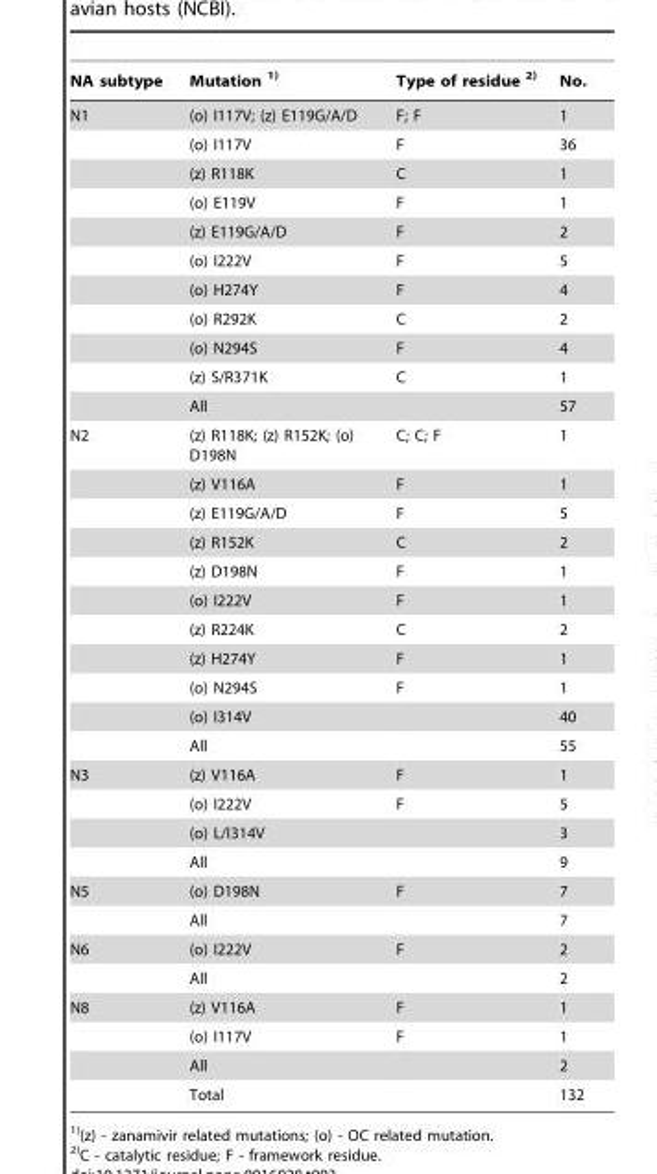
<table><thead><tr><td>NA subtype</td><td>Mutation 1)</td><td>Type of residue 2)</td><td>No.</td></tr></thead><tbody><tr><td rowspan="11">N1</td><td>(o) I117V; (z) E119G/A/D</td><td>F; F</td><td>1</td></tr><tr><td>(o) I117V</td><td>F</td><td>36</td></tr><tr><td>(z) R118K</td><td>C</td><td>1</td></tr><tr><td>(o) E119V</td><td>F</td><td>1</td></tr><tr><td>(z) E119G/A/D</td><td>F</td><td>2</td></tr><tr><td>(o) I222V</td><td>F</td><td>5</td></tr><tr><td>(o) H274Y</td><td>F</td><td>4</td></tr><tr><td>(o) R292K</td><td>C</td><td>2</td></tr><tr><td>(o) N294S</td><td>F</td><td>4</td></tr><tr><td>(z) S/R371K</td><td>C</td><td>1</td></tr><tr><td>All</td><td></td><td>57</td></tr><tr><td rowspan="11">N2</td><td>(z) R118K; (z) R152K; (o) D198N</td><td>C; C; F</td><td>1</td></tr><tr><td>(z) V116A</td><td>F</td><td>1</td></tr><tr><td>(z) E119G/A/D</td><td>F</td><td>5</td></tr><tr><td>(z) R152K</td><td>C</td><td>2</td></tr><tr><td>(z) D198N</td><td>F</td><td>1</td></tr><tr><td>(o) I222V</td><td>F</td><td>1</td></tr><tr><td>(z) R224K</td><td>C</td><td>2</td></tr><tr><td>(z) H274Y</td><td>F</td><td>1</td></tr><tr><td>(o) N294S</td><td>F</td><td>1</td></tr><tr><td>(o) I314V</td><td></td><td>40</td></tr><tr><td>All</td><td></td><td>55</td></tr><tr><td rowspan="4">N3</td><td>(z) V116A</td><td>F</td><td>1</td></tr><tr><td>(o) I222V</td><td>F</td><td>5</td></tr><tr><td>(o) L/I314V</td><td></td><td>3</td></tr><tr><td>All</td><td></td><td>9</td></tr><tr><td rowspan="2">N5</td><td>(o) D198N</td><td>F</td><td>7</td></tr><tr><td>All</td><td></td><td>7</td></tr><tr><td rowspan="2">N6</td><td>(o) I222V</td><td>F</td><td>2</td></tr><tr><td>All</td><td></td><td>2</td></tr><tr><td rowspan="4">N8</td><td>(z) V116A</td><td>F</td><td>1</td></tr><tr><td>(o) I117V</td><td>F</td><td>1</td></tr><tr><td>All</td><td></td><td>2</td></tr><tr><td>Total</td><td></td><td>132</td></tr></tbody></table>